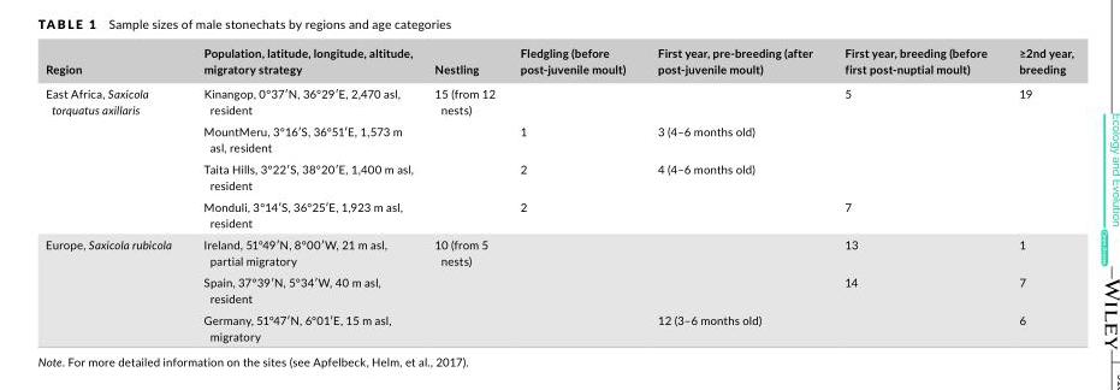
<table><thead><tr><td>Region</td><td>Population, latitude, longitude, altitude, migratory strategy</td><td>Nestling</td><td>Fledgling (before post‐juvenile moult)</td><td>First year, pre‐breeding (after post‐juvenile moult)</td><td>First year, breeding (before first post‐nuptial moult)</td><td>≥2nd year, breeding</td></tr></thead><tbody><tr><td rowspan="4">East Africa, Saxicola torquatus axillaris</td><td>Kinangop, 0°37′N, 36°29′E, 2,470 asl, resident</td><td>15 (from 12 nests)</td><td></td><td></td><td>5</td><td>19</td></tr><tr><td>MountMeru, 3°16′S, 36°51′E, 1,573 m asl, resident</td><td></td><td>1</td><td>3 (4–6 months old)</td><td></td><td></td></tr><tr><td>Taita Hills, 3°22′S, 38°20′E, 1,400 m asl, resident</td><td></td><td>2</td><td>4 (4–6 months old)</td><td></td><td></td></tr><tr><td>Monduli, 3°14′S, 36°25′E, 1,923 m asl, resident</td><td></td><td>2</td><td></td><td>7</td><td></td></tr><tr><td rowspan="3">Europe, Saxicola rubicola</td><td>Ireland, 51°49′N, 8°00′W, 21 m asl, partial migratory</td><td>10 (from 5 nests)</td><td></td><td></td><td>13</td><td>1</td></tr><tr><td>Spain, 37°39′N, 5°34′W, 40 m asl, resident</td><td></td><td></td><td></td><td>14</td><td>7</td></tr><tr><td>Germany, 51°47′N, 6°01′E, 15 m asl, migratory</td><td></td><td></td><td>12 (3–6 months old)</td><td></td><td>6</td></tr></tbody></table>